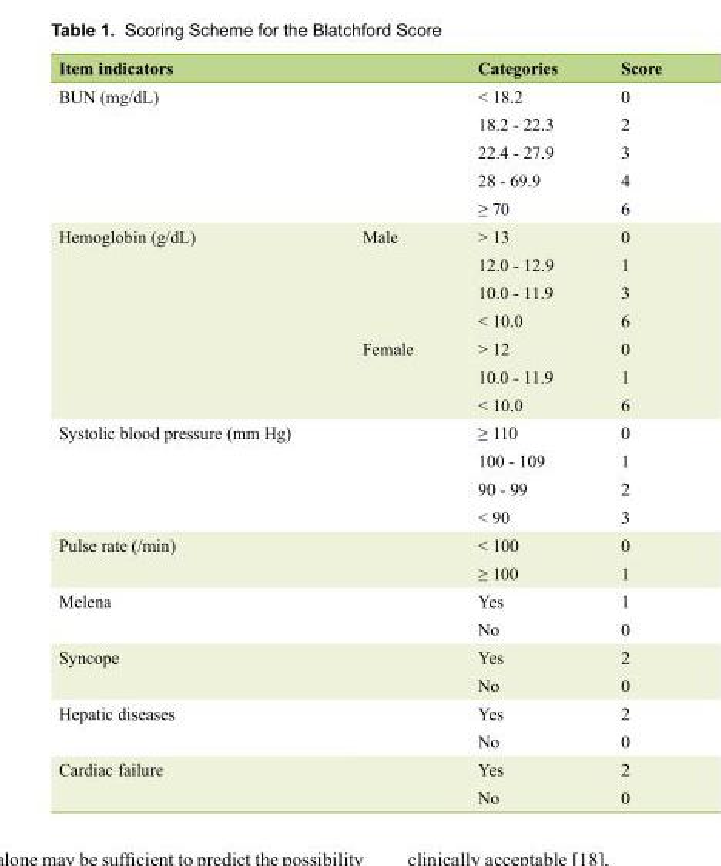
<table><thead><tr><td>Item indicators</td><td></td><td>Categories</td><td>Score</td></tr></thead><tbody><tr><td rowspan="5">BUN (mg/dL)</td><td></td><td>&lt; 18.2</td><td>0</td></tr><tr><td></td><td>18.2 - 22.3</td><td>2</td></tr><tr><td></td><td>22.4 - 27.9</td><td>3</td></tr><tr><td></td><td>28 - 69.9</td><td>4</td></tr><tr><td></td><td>≥ 70</td><td>6</td></tr><tr><td rowspan="7">Hemoglobin (g/dL)</td><td rowspan="4">Male</td><td>&gt; 13</td><td>0</td></tr><tr><td>12.0 - 12.9</td><td>1</td></tr><tr><td>10.0 - 11.9</td><td>3</td></tr><tr><td>&lt; 10.0</td><td>6</td></tr><tr><td rowspan="3">Female</td><td>&gt; 12</td><td>0</td></tr><tr><td>10.0 - 11.9</td><td>1</td></tr><tr><td>&lt; 10.0</td><td>6</td></tr><tr><td rowspan="4">Systolic blood pressure (mm Hg)</td><td></td><td>≥ 110</td><td>0</td></tr><tr><td></td><td>100 - 109</td><td>1</td></tr><tr><td></td><td>90 - 99</td><td>2</td></tr><tr><td></td><td>&lt; 90</td><td>3</td></tr><tr><td rowspan="2">Pulse rate (/min)</td><td></td><td>&lt; 100</td><td>0</td></tr><tr><td></td><td>≥ 100</td><td>1</td></tr><tr><td rowspan="2">Melena</td><td></td><td>Yes</td><td>1</td></tr><tr><td></td><td>No</td><td>0</td></tr><tr><td rowspan="2">Syncope</td><td></td><td>Yes</td><td>2</td></tr><tr><td></td><td>No</td><td>0</td></tr><tr><td rowspan="2">Hepatic diseases</td><td></td><td>Yes</td><td>2</td></tr><tr><td></td><td>No</td><td>0</td></tr><tr><td rowspan="2">Cardiac failure</td><td></td><td>Yes</td><td>2</td></tr><tr><td></td><td>No</td><td>0</td></tr></tbody></table>